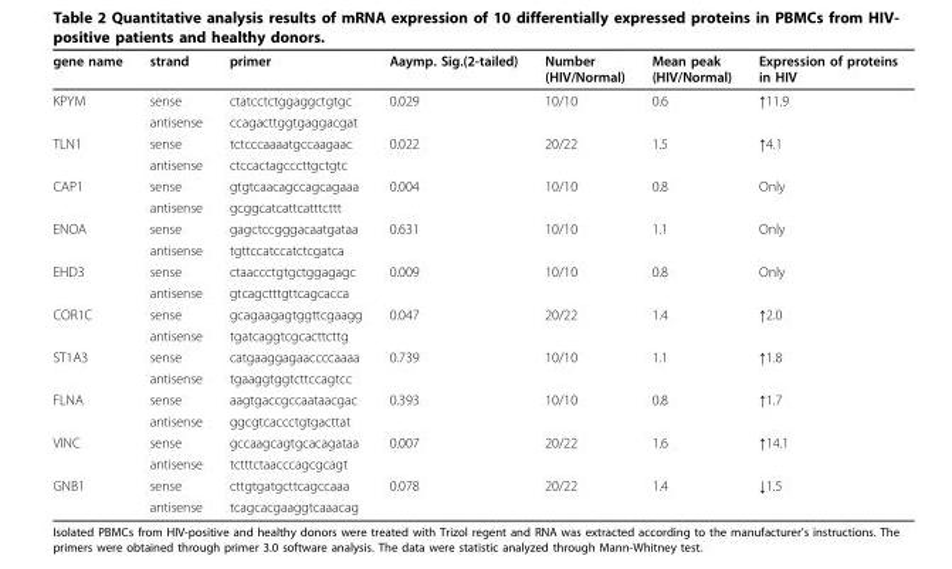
<table><thead><tr><td>gene name</td><td>strand</td><td>primer</td><td>Aaymp. Sig.(2-tailed)</td><td>Number (HIV/Normal)</td><td>Mean peak (HIV/Normal)</td><td>Expression of proteins in HIV</td></tr></thead><tbody><tr><td rowspan="2">KPYM</td><td>sense</td><td>ctatcctctggaggctgtgc</td><td>0.029</td><td>10/10</td><td>0.6</td><td>↑11.9</td></tr><tr><td>antisense</td><td>ccagacttggtgaggacgat</td><td></td><td></td><td></td><td></td></tr><tr><td rowspan="2">TLN1</td><td>sense</td><td>tctcccaaaatgccaagaac</td><td>0.022</td><td>20/22</td><td>1.5</td><td>↑4.1</td></tr><tr><td>antisense</td><td>ctccactagcccttgctgtc</td><td></td><td></td><td></td><td></td></tr><tr><td rowspan="2">CAP1</td><td>sense</td><td>gtgtcaacagccagcagaaa</td><td>0.004</td><td>10/10</td><td>0.8</td><td>Only</td></tr><tr><td>antisense</td><td>gcggcatcattcatttcttt</td><td></td><td></td><td></td><td></td></tr><tr><td rowspan="2">ENOA</td><td>sense</td><td>gagctccgggacaatgataa</td><td>0.631</td><td>10/10</td><td>1.1</td><td>Only</td></tr><tr><td>antisense</td><td>tgttccatccatctcgatca</td><td></td><td></td><td></td><td></td></tr><tr><td rowspan="2">EHD3</td><td>sense</td><td>ctaaccctgtgctggagagc</td><td>0.009</td><td>10/10</td><td>0.8</td><td>Only</td></tr><tr><td>antisense</td><td>gtcagctttgttcagcacca</td><td></td><td></td><td></td><td></td></tr><tr><td rowspan="2">COR1C</td><td>sense</td><td>gcagaagagtggttcgaagg</td><td>0.047</td><td>20/22</td><td>1.4</td><td>↑2.0</td></tr><tr><td>antisense</td><td>tgatcaggtcgcacttcttg</td><td></td><td></td><td></td><td></td></tr><tr><td rowspan="2">ST1A3</td><td>sense</td><td>catgaaggagaaccccaaaa</td><td>0.739</td><td>10/10</td><td>1.1</td><td>↑1.8</td></tr><tr><td>antisense</td><td>tgaaggtggtcttccagtcc</td><td></td><td></td><td></td><td></td></tr><tr><td rowspan="2">FLNA</td><td>sense</td><td>aagtgaccgccaataacgac</td><td>0.393</td><td>10/10</td><td>0.8</td><td>↑1.7</td></tr><tr><td>antisense</td><td>ggcgtcaccctgtgacttat</td><td></td><td></td><td></td><td></td></tr><tr><td rowspan="2">VINC</td><td>sense</td><td>gccaagcagtgcacagataa</td><td>0.007</td><td>20/22</td><td>1.6</td><td>↑14.1</td></tr><tr><td>antisense</td><td>tctttctaacccagcgcagt</td><td></td><td></td><td></td><td></td></tr><tr><td rowspan="2">GNB1</td><td>sense</td><td>cttgtgatgcttcagccaaa</td><td>0.078</td><td>20/22</td><td>1.4</td><td>↓1.5</td></tr><tr><td>antisense</td><td>tcagcacgaaggtcaaacag</td><td></td><td></td><td></td><td></td></tr></tbody></table>